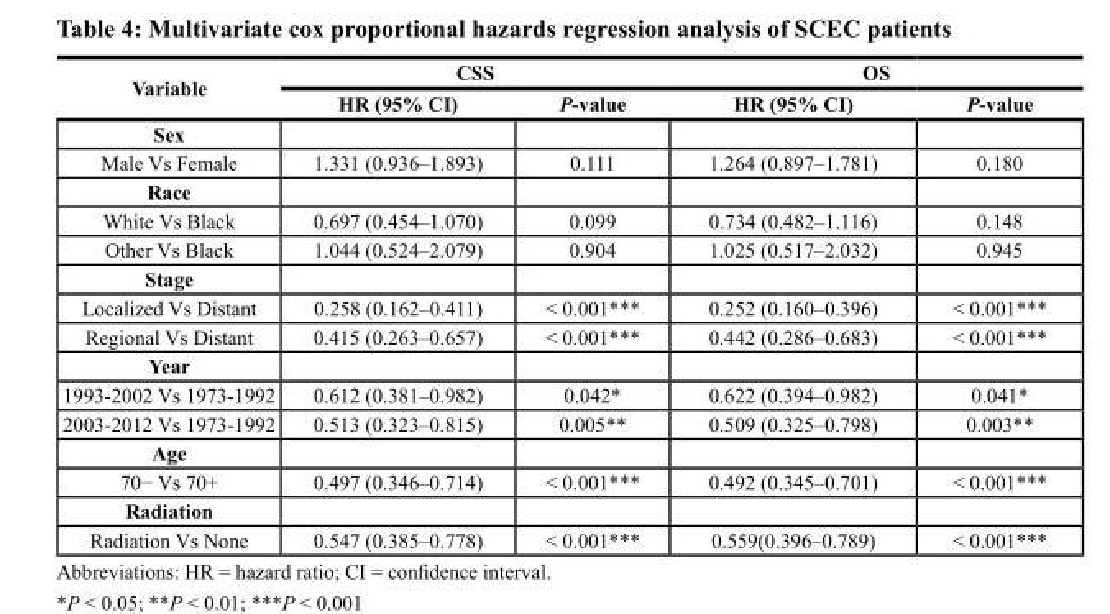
<table><thead><tr><td rowspan="2">Variable</td><td colspan="2">CSS</td><td colspan="2">OS</td></tr><tr><td>HR (95% CI)</td><td>P-value</td><td>HR (95% CI)</td><td>P-value</td></tr></thead><tbody><tr><td colspan="5">Sex</td></tr><tr><td>Male Vs Female</td><td>1.331 (0.936–1.893)</td><td>0.111</td><td>1.264 (0.897–1.781)</td><td>0.180</td></tr><tr><td colspan="5">Race</td></tr><tr><td>White Vs Black</td><td>0.697 (0.454–1.070)</td><td>0.099</td><td>0.734 (0.482–1.116)</td><td>0.148</td></tr><tr><td>Other Vs Black</td><td>1.044 (0.524–2.079)</td><td>0.904</td><td>1.025 (0.517–2.032)</td><td>0.945</td></tr><tr><td colspan="5">Stage</td></tr><tr><td>Localized Vs Distant</td><td>0.258 (0.162–0.411)</td><td>&lt; 0.001***</td><td>0.252 (0.160–0.396)</td><td>&lt; 0.001***</td></tr><tr><td>Regional Vs Distant</td><td>0.415 (0.263–0.657)</td><td>&lt; 0.001***</td><td>0.442 (0.286–0.683)</td><td>&lt; 0.001***</td></tr><tr><td colspan="5">Year</td></tr><tr><td>1993-2002 Vs 1973-1992</td><td>0.612 (0.381–0.982)</td><td>0.042*</td><td>0.622 (0.394–0.982)</td><td>0.041*</td></tr><tr><td>2003-2012 Vs 1973-1992</td><td>0.513 (0.323–0.815)</td><td>0.005**</td><td>0.509 (0.325–0.798)</td><td>0.003**</td></tr><tr><td colspan="5">Age</td></tr><tr><td>70− Vs 70+</td><td>0.497 (0.346–0.714)</td><td>&lt; 0.001***</td><td>0.492 (0.345–0.701)</td><td>&lt; 0.001***</td></tr><tr><td colspan="5">Radiation</td></tr><tr><td>Radiation Vs None</td><td>0.547 (0.385–0.778)</td><td>&lt; 0.001***</td><td>0.559(0.396–0.789)</td><td>&lt; 0.001***</td></tr></tbody></table>